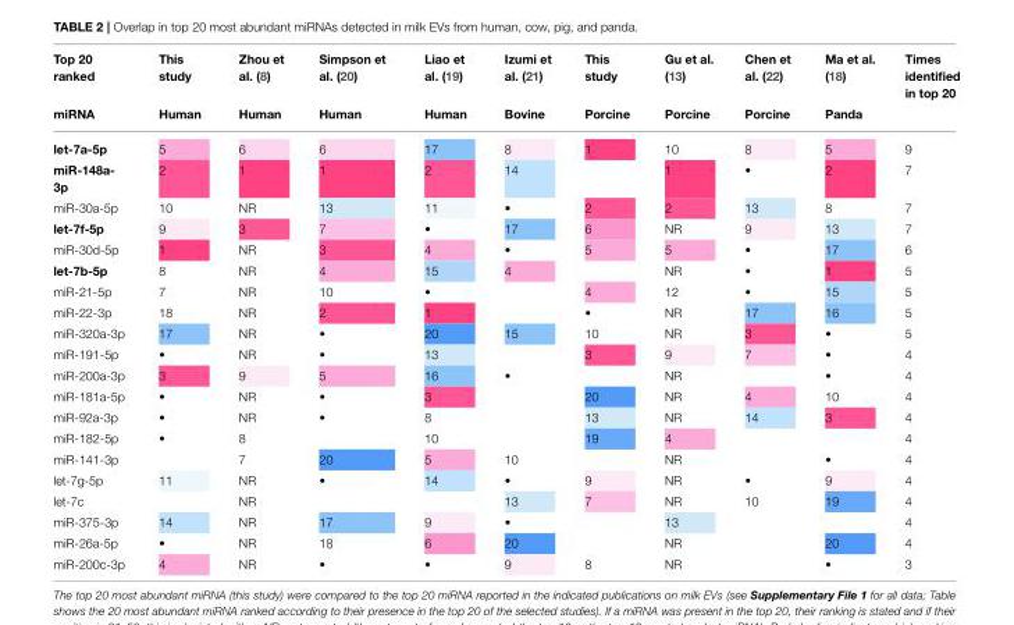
<table><thead><tr><td rowspan="2">Top 20 ranked miRNA</td><td rowspan="2">This study Human</td><td rowspan="2">Zhou et al. (8) Human</td><td rowspan="2">Simpson et al. (20) Human</td><td rowspan="2">Liao et al. (19) Human</td><td rowspan="2">Izumi et al. (21) Bovine</td><td rowspan="2">This study Porcine</td><td rowspan="2">Gu et al. (13) Porcine</td><td rowspan="2">Chen et al. (22) Porcine</td><td rowspan="2">Ma et al. (18) Panda</td><td rowspan="2">Times identified in top 20</td></tr><tr></tr></thead><tbody><tr><td>let-7a-5p</td><td>5</td><td>6</td><td>6</td><td>17</td><td>8</td><td>1</td><td>10</td><td>8</td><td>5</td><td>9</td></tr><tr><td>miR-148a- 3p</td><td>2</td><td>1</td><td>1</td><td>2</td><td>14</td><td></td><td>1</td><td>•</td><td>2</td><td>7</td></tr><tr><td>miR-30a-5p</td><td>10</td><td>NR</td><td>13</td><td>11</td><td>•</td><td>2</td><td>2</td><td>13</td><td>8</td><td>7</td></tr><tr><td>let-7f-5p</td><td>9</td><td>3</td><td>7</td><td>•</td><td>17</td><td>6</td><td>NR</td><td>9</td><td>13</td><td>7</td></tr><tr><td>miR-30d-5p</td><td>1</td><td>NR</td><td>3</td><td>4</td><td>•</td><td>5</td><td>5</td><td>•</td><td>17</td><td>6</td></tr><tr><td>let-7b-5p</td><td>8</td><td>NR</td><td>4</td><td>15</td><td>4</td><td></td><td>NR</td><td>•</td><td>1</td><td>5</td></tr><tr><td>miR-21-5p</td><td>7</td><td>NR</td><td>10</td><td>•</td><td></td><td>4</td><td>12</td><td>•</td><td>15</td><td>5</td></tr><tr><td>miR-22-3p</td><td>18</td><td>NR</td><td>2</td><td>1</td><td></td><td>•</td><td>NR</td><td>17</td><td>16</td><td>5</td></tr><tr><td>miR-320a-3p</td><td>17</td><td>NR</td><td>•</td><td>20</td><td>15</td><td>10</td><td>NR</td><td>3</td><td>•</td><td>5</td></tr><tr><td>miR-191-5p</td><td>•</td><td>NR</td><td>•</td><td>13</td><td></td><td>3</td><td>9</td><td>7</td><td>•</td><td>4</td></tr><tr><td>miR-200a-3p</td><td>3</td><td>9</td><td>5</td><td>16</td><td>•</td><td></td><td>NR</td><td></td><td>•</td><td>4</td></tr><tr><td>miR-181a-5p</td><td>•</td><td>NR</td><td>•</td><td>3</td><td></td><td>20</td><td>NR</td><td>4</td><td>10</td><td>4</td></tr><tr><td>miR-92a-3p</td><td>•</td><td>NR</td><td>•</td><td>8</td><td></td><td>13</td><td>NR</td><td>14</td><td>3</td><td>4</td></tr><tr><td>miR-182-5p</td><td>•</td><td>8</td><td></td><td>10</td><td></td><td>19</td><td>4</td><td></td><td></td><td>4</td></tr><tr><td>miR-141-3p</td><td></td><td>7</td><td>20</td><td>5</td><td>10</td><td></td><td>NR</td><td></td><td>•</td><td>4</td></tr><tr><td>let-7g-5p</td><td>11</td><td>NR</td><td>•</td><td>14</td><td>•</td><td>9</td><td>NR</td><td>•</td><td>9</td><td>4</td></tr><tr><td>let-7c</td><td></td><td>NR</td><td></td><td></td><td>13</td><td>7</td><td>NR</td><td>10</td><td>19</td><td>4</td></tr><tr><td>miR-375-3p</td><td>14</td><td>NR</td><td>17</td><td>9</td><td>•</td><td></td><td>13</td><td></td><td></td><td>4</td></tr><tr><td>miR-26a-5p</td><td>•</td><td>NR</td><td>18</td><td>6</td><td>20</td><td></td><td>NR</td><td></td><td>20</td><td>4</td></tr><tr><td>miR-200c-3p</td><td>4</td><td>NR</td><td>•</td><td>•</td><td>9</td><td>8</td><td>NR</td><td></td><td>•</td><td>3</td></tr></tbody></table>